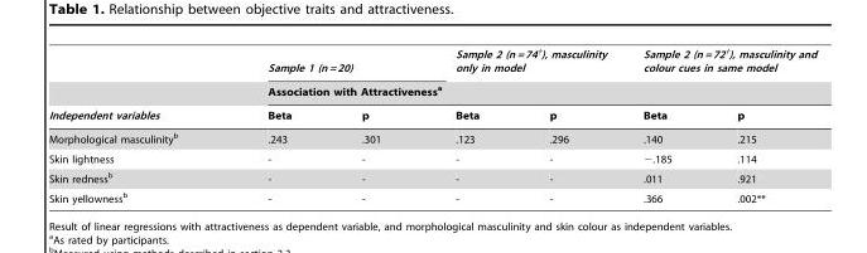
<table><thead><tr><td rowspan="3">Independent variables</td><td colspan="2">Sample 1 (n = 20)</td><td colspan="2">Sample 2 (n = 74†), masculinity only in model</td><td colspan="2">Sample 2 (n = 72†), masculinity and colour cues in same model</td></tr><tr><td colspan="6">Association with Attractiveness<sup>a</sup></td></tr><tr><td>Beta</td><td>p</td><td>Beta</td><td>p</td><td>Beta</td><td>p</td></tr></thead><tbody><tr><td>Morphological masculinity<sup>b</sup></td><td>.243</td><td>.301</td><td>.123</td><td>.296</td><td>.140</td><td>.215</td></tr><tr><td>Skin lightness</td><td>-</td><td>-</td><td>-</td><td>-</td><td>−.185</td><td>.114</td></tr><tr><td>Skin redness<sup>b</sup></td><td>-</td><td>-</td><td>-</td><td>-</td><td>.011</td><td>.921</td></tr><tr><td>Skin yellowness<sup>b</sup></td><td>-</td><td>-</td><td>-</td><td>-</td><td>.366</td><td>.002**</td></tr></tbody></table>